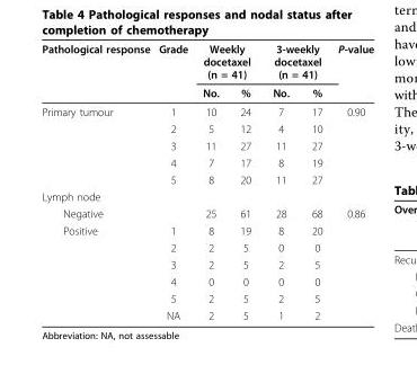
<table><thead><tr><td rowspan="2">Pathological response</td><td rowspan="2">Grade</td><td colspan="2">Weekly docetaxel (n = 41)</td><td colspan="2">3-weekly docetaxel (n = 41)</td><td rowspan="2">P-value</td></tr><tr><td>No.</td><td>%</td><td>No.</td><td>%</td></tr></thead><tbody><tr><td rowspan="5">Primary tumour</td><td>1</td><td>10</td><td>24</td><td>7</td><td>17</td><td>0.90</td></tr><tr><td>2</td><td>5</td><td>12</td><td>4</td><td>10</td><td></td></tr><tr><td>3</td><td>11</td><td>27</td><td>11</td><td>27</td><td></td></tr><tr><td>4</td><td>7</td><td>17</td><td>8</td><td>19</td><td></td></tr><tr><td>5</td><td>8</td><td>20</td><td>11</td><td>27</td><td></td></tr><tr><td colspan="7">Lymph node</td></tr><tr><td>Negative</td><td></td><td>25</td><td>61</td><td>28</td><td>68</td><td>0.86</td></tr><tr><td rowspan="6">Positive</td><td>1</td><td>8</td><td>19</td><td>8</td><td>20</td><td></td></tr><tr><td>2</td><td>2</td><td>5</td><td>0</td><td>0</td><td></td></tr><tr><td>3</td><td>2</td><td>5</td><td>2</td><td>5</td><td></td></tr><tr><td>4</td><td>0</td><td>0</td><td>0</td><td>0</td><td></td></tr><tr><td>5</td><td>2</td><td>5</td><td>2</td><td>5</td><td></td></tr><tr><td>NA</td><td>2</td><td>5</td><td>1</td><td>2</td><td></td></tr></tbody></table>